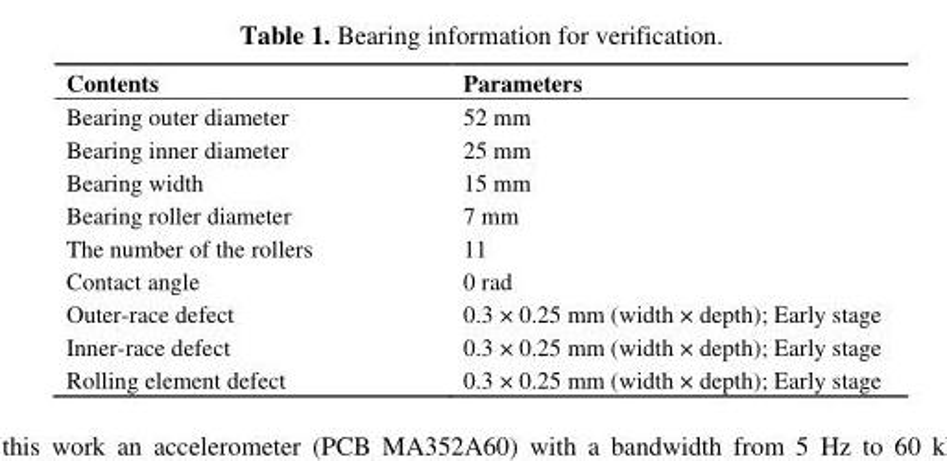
<table><thead><tr><td>Contents</td><td>Parameters</td></tr></thead><tbody><tr><td>Bearing outer diameter</td><td>52 mm</td></tr><tr><td>Bearing inner diameter</td><td>25 mm</td></tr><tr><td>Bearing width</td><td>15 mm</td></tr><tr><td>Bearing roller diameter</td><td>7 mm</td></tr><tr><td>The number of the rollers</td><td>11</td></tr><tr><td>Contact angle</td><td>0 rad</td></tr><tr><td>Outer-race defect</td><td>0.3 × 0.25 mm (width × depth); Early stage</td></tr><tr><td>Inner-race defect</td><td>0.3 × 0.25 mm (width × depth); Early stage</td></tr><tr><td>Rolling element defect</td><td>0.3 × 0.25 mm (width × depth); Early stage</td></tr></tbody></table>